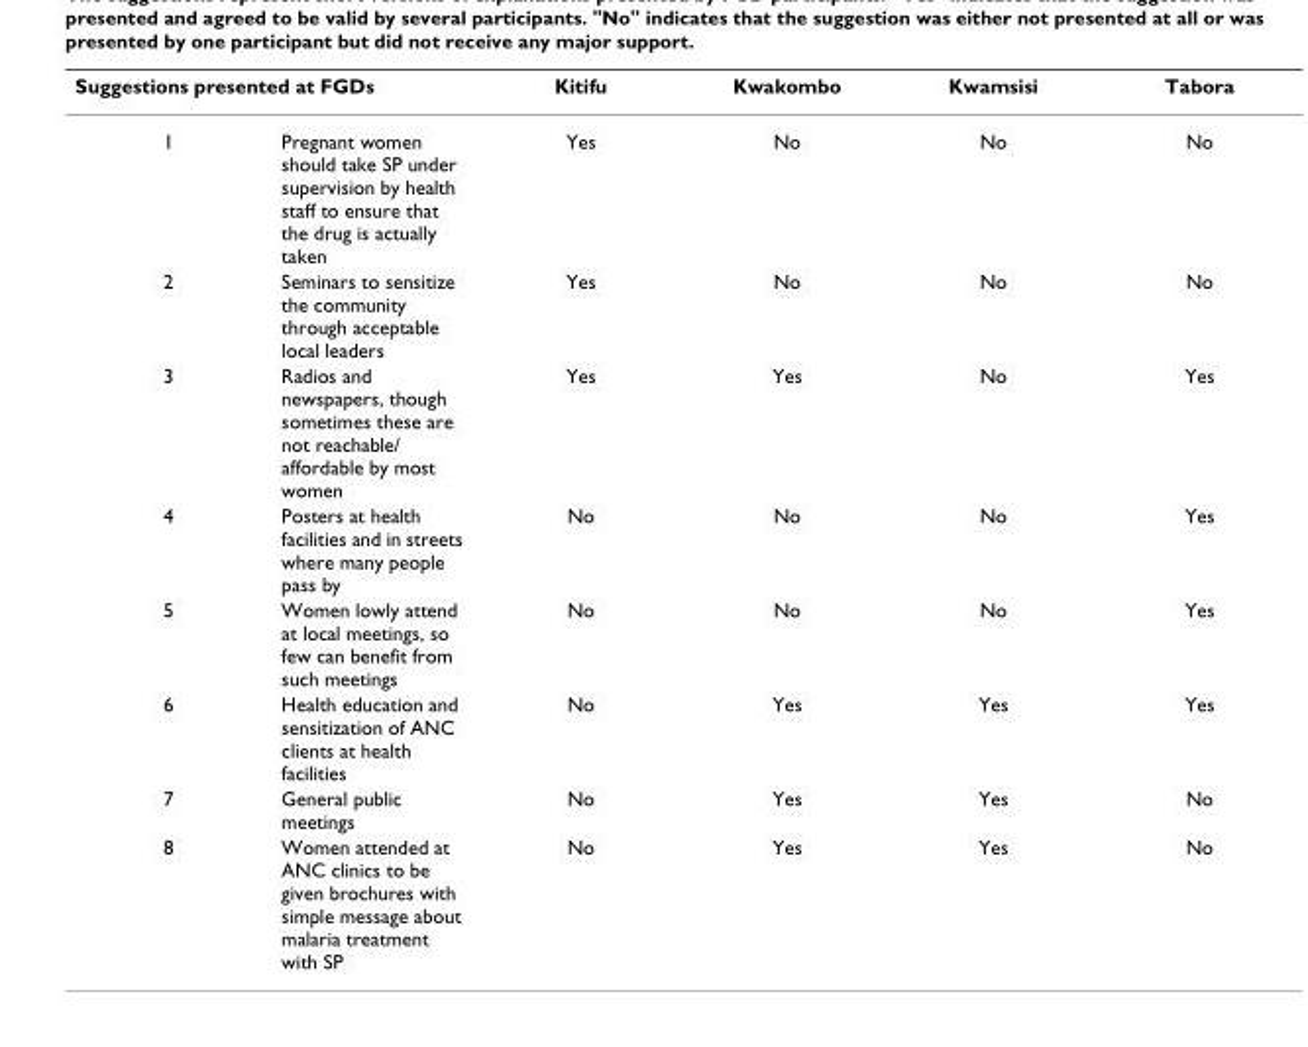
<table><thead><tr><td colspan="2">Suggestions presented at FGDs</td><td rowspan="2">Kitifu Yes</td><td rowspan="2">Kwakombo No</td><td rowspan="2">Kwamsisi No</td><td rowspan="2">Tabora No</td></tr><tr><td>1</td><td>Pregnant women should take SP under supervision by health staff to ensure that the drug is actually taken</td></tr></thead><tbody><tr><td>2</td><td>Seminars to sensitize the community through acceptable local leaders</td><td>Yes</td><td>No</td><td>No</td><td>No</td></tr><tr><td>3</td><td>Radios and newspapers, though sometimes these are not reachable/ affordable by most women</td><td>Yes</td><td>Yes</td><td>No</td><td>Yes</td></tr><tr><td>4</td><td>Posters at health facilities and in streets where many people pass by</td><td>No</td><td>No</td><td>No</td><td>Yes</td></tr><tr><td>5</td><td>Women lowly attend at local meetings, so few can benefit from such meetings</td><td>No</td><td>No</td><td>No</td><td>Yes</td></tr><tr><td>6</td><td>Health education and sensitization of ANC clients at health facilities</td><td>No</td><td>Yes</td><td>Yes</td><td>Yes</td></tr><tr><td>7</td><td>General public meetings</td><td>No</td><td>Yes</td><td>Yes</td><td>No</td></tr><tr><td>8</td><td>Women attended at ANC clinics to be given brochures with simple message about malaria treatment with SP</td><td>No</td><td>Yes</td><td>Yes</td><td>No</td></tr></tbody></table>